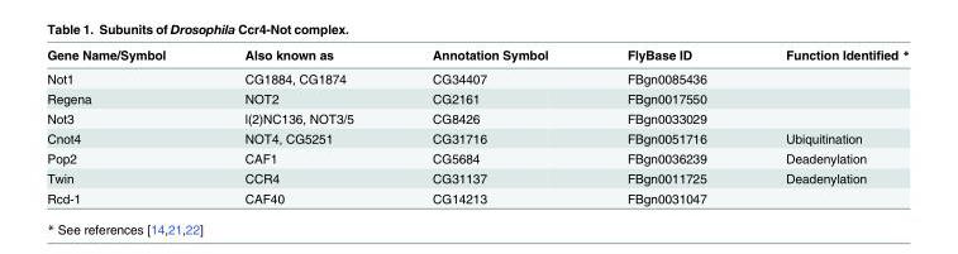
<table><thead><tr><td>Gene Name/Symbol</td><td>Also known as</td><td>Annotation Symbol</td><td>FlyBase ID</td><td>Function Identified *</td></tr></thead><tbody><tr><td>Not1</td><td>CG1884, CG1874</td><td>CG34407</td><td>FBgn0085436</td><td></td></tr><tr><td>Regena</td><td>NOT2</td><td>CG2161</td><td>FBgn0017550</td><td></td></tr><tr><td>Not3</td><td>l(2)NC136, NOT3/5</td><td>CG8426</td><td>FBgn0033029</td><td></td></tr><tr><td>Cnot4</td><td>NOT4, CG5251</td><td>CG31716</td><td>FBgn0051716</td><td>Ubiquitination</td></tr><tr><td>Pop2</td><td>CAF1</td><td>CG5684</td><td>FBgn0036239</td><td>Deadenylation</td></tr><tr><td>Twin</td><td>CCR4</td><td>CG31137</td><td>FBgn0011725</td><td>Deadenylation</td></tr><tr><td>Rcd-1</td><td>CAF40</td><td>CG14213</td><td>FBgn0031047</td><td></td></tr></tbody></table>